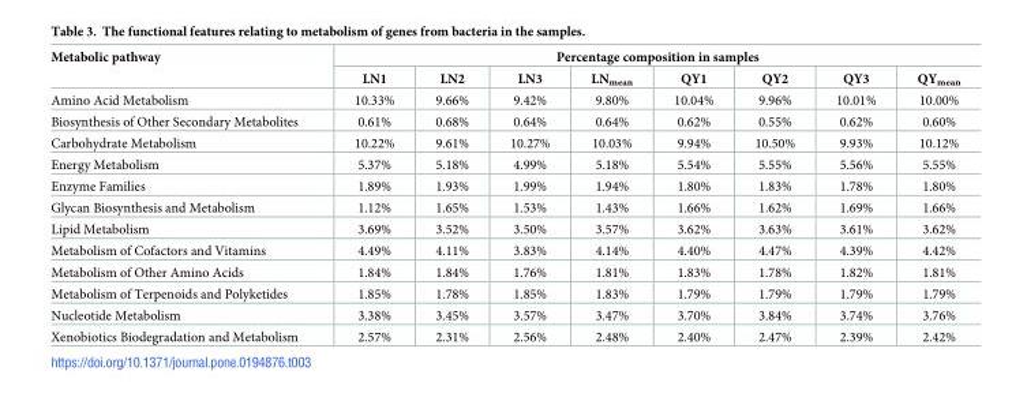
<table><thead><tr><td rowspan="2">Metabolic pathway</td><td colspan="8">Percentage composition in samples</td></tr><tr><td>LN1</td><td>LN2</td><td>LN3</td><td>LN<sub>mean</sub></td><td>QY1</td><td>QY2</td><td>QY3</td><td>QY<sub>mean</sub></td></tr></thead><tbody><tr><td>Amino Acid Metabolism</td><td>10.33%</td><td>9.66%</td><td>9.42%</td><td>9.80%</td><td>10.04%</td><td>9.96%</td><td>10.01%</td><td>10.00%</td></tr><tr><td>Biosynthesis of Other Secondary Metabolites</td><td>0.61%</td><td>0.68%</td><td>0.64%</td><td>0.64%</td><td>0.62%</td><td>0.55%</td><td>0.62%</td><td>0.60%</td></tr><tr><td>Carbohydrate Metabolism</td><td>10.22%</td><td>9.61%</td><td>10.27%</td><td>10.03%</td><td>9.94%</td><td>10.50%</td><td>9.93%</td><td>10.12%</td></tr><tr><td>Energy Metabolism</td><td>5.37%</td><td>5.18%</td><td>4.99%</td><td>5.18%</td><td>5.54%</td><td>5.55%</td><td>5.56%</td><td>5.55%</td></tr><tr><td>Enzyme Families</td><td>1.89%</td><td>1.93%</td><td>1.99%</td><td>1.94%</td><td>1.80%</td><td>1.83%</td><td>1.78%</td><td>1.80%</td></tr><tr><td>Glycan Biosynthesis and Metabolism</td><td>1.12%</td><td>1.65%</td><td>1.53%</td><td>1.43%</td><td>1.66%</td><td>1.62%</td><td>1.69%</td><td>1.66%</td></tr><tr><td>Lipid Metabolism</td><td>3.69%</td><td>3.52%</td><td>3.50%</td><td>3.57%</td><td>3.62%</td><td>3.63%</td><td>3.61%</td><td>3.62%</td></tr><tr><td>Metabolism of Cofactors and Vitamins</td><td>4.49%</td><td>4.11%</td><td>3.83%</td><td>4.14%</td><td>4.40%</td><td>4.47%</td><td>4.39%</td><td>4.42%</td></tr><tr><td>Metabolism of Other Amino Acids</td><td>1.84%</td><td>1.84%</td><td>1.76%</td><td>1.81%</td><td>1.83%</td><td>1.78%</td><td>1.82%</td><td>1.81%</td></tr><tr><td>Metabolism of Terpenoids and Polyketides</td><td>1.85%</td><td>1.78%</td><td>1.85%</td><td>1.83%</td><td>1.79%</td><td>1.79%</td><td>1.79%</td><td>1.79%</td></tr><tr><td>Nucleotide Metabolism</td><td>3.38%</td><td>3.45%</td><td>3.57%</td><td>3.47%</td><td>3.70%</td><td>3.84%</td><td>3.74%</td><td>3.76%</td></tr><tr><td>Xenobiotics Biodegradation and Metabolism</td><td>2.57%</td><td>2.31%</td><td>2.56%</td><td>2.48%</td><td>2.40%</td><td>2.47%</td><td>2.39%</td><td>2.42%</td></tr></tbody></table>